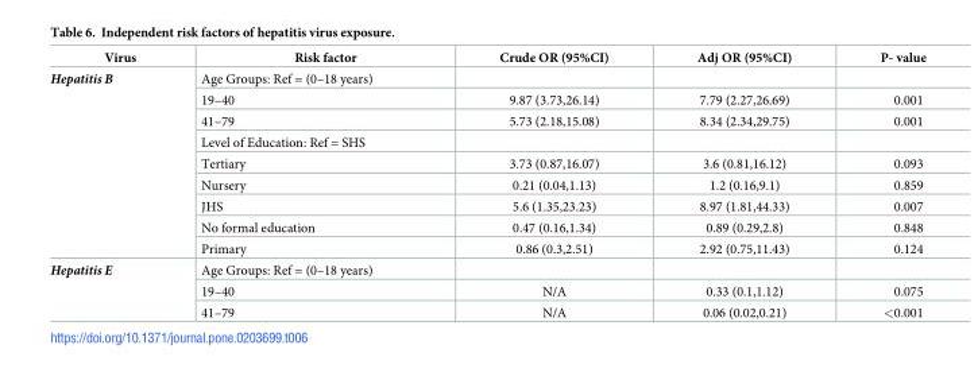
<table><thead><tr><td>Virus</td><td>Risk factor</td><td>Crude OR (95%CI)</td><td>Adj OR (95%CI)</td><td>P- value</td></tr></thead><tbody><tr><td rowspan="9">Hepatitis B</td><td>Age Groups: Ref = (0–18 years)</td><td></td><td></td><td></td></tr><tr><td>19–40</td><td>9.87 (3.73,26.14)</td><td>7.79 (2.27,26.69)</td><td>0.001</td></tr><tr><td>41–79</td><td>5.73 (2.18,15.08)</td><td>8.34 (2.34,29.75)</td><td>0.001</td></tr><tr><td>Level of Education: Ref = SHS</td><td></td><td></td><td></td></tr><tr><td>Tertiary</td><td>3.73 (0.87,16.07)</td><td>3.6 (0.81,16.12)</td><td>0.093</td></tr><tr><td>Nursery</td><td>0.21 (0.04,1.13)</td><td>1.2 (0.16,9.1)</td><td>0.859</td></tr><tr><td>JHS</td><td>5.6 (1.35,23.23)</td><td>8.97 (1.81,44.33)</td><td>0.007</td></tr><tr><td>No formal education</td><td>0.47 (0.16,1.34)</td><td>0.89 (0.29,2.8)</td><td>0.848</td></tr><tr><td>Primary</td><td>0.86 (0.3,2.51)</td><td>2.92 (0.75,11.43)</td><td>0.124</td></tr><tr><td rowspan="3">Hepatitis E</td><td>Age Groups: Ref = (0–18 years)</td><td></td><td></td><td></td></tr><tr><td>19–40</td><td>N/A</td><td>0.33 (0.1,1.12)</td><td>0.075</td></tr><tr><td>41–79</td><td>N/A</td><td>0.06 (0.02,0.21)</td><td>&lt;0.001</td></tr></tbody></table>